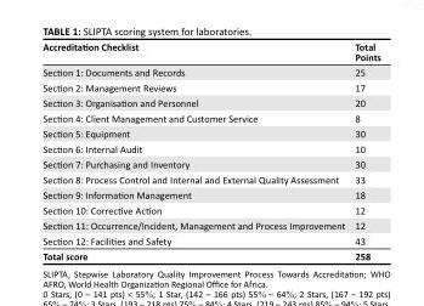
<table><thead><tr><td>Accreditation Checklist</td><td>Total Points</td></tr></thead><tbody><tr><td>Section 1: Documents and Records</td><td>25</td></tr><tr><td>Section 2: Management Reviews</td><td>17</td></tr><tr><td>Section 3: Organisation and Personnel</td><td>20</td></tr><tr><td>Section 4: Client Management and Customer Service</td><td>8</td></tr><tr><td>Section 5: Equipment</td><td>30</td></tr><tr><td>Section 6: Internal Audit</td><td>10</td></tr><tr><td>Section 7: Purchasing and Inventory</td><td>30</td></tr><tr><td>Section 8: Process Control and Internal and External Quality Assessment</td><td>33</td></tr><tr><td>Section 9: Information Management</td><td>18</td></tr><tr><td>Section 10: Corrective Action</td><td>12</td></tr><tr><td>Section 11: Occurrence/Incident, Management and Process Improvement</td><td>12</td></tr><tr><td>Section 12: Facilities and Safety</td><td>43</td></tr><tr><td>Total score</td><td>258</td></tr></tbody></table>